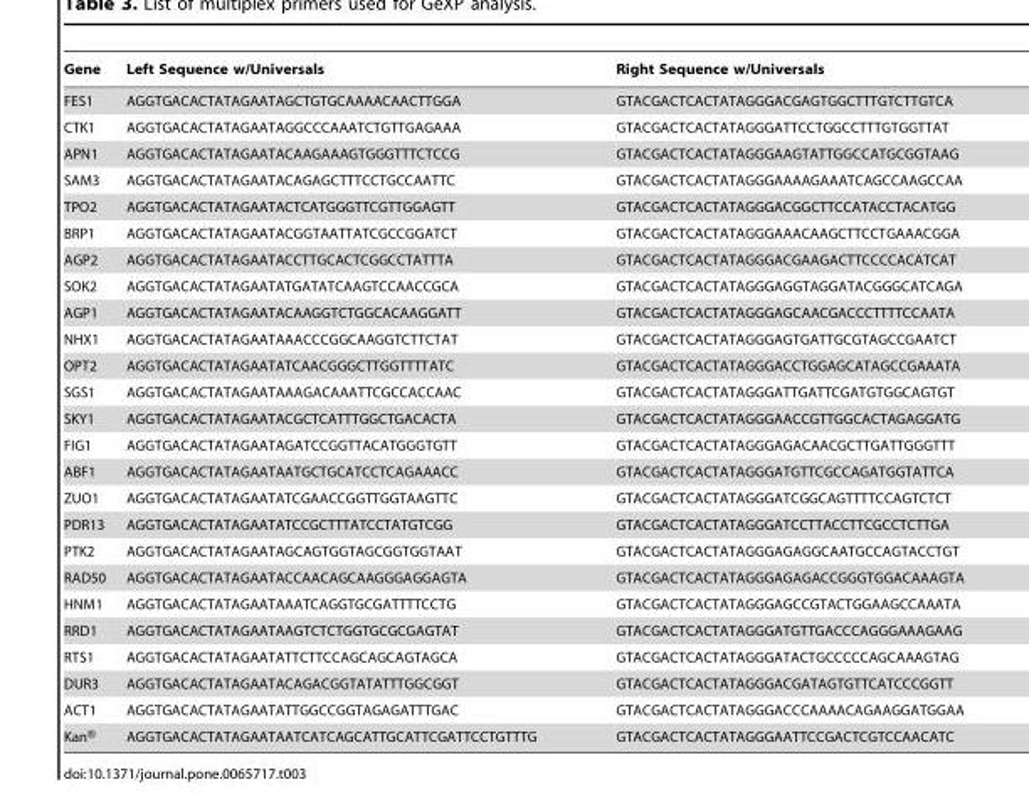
<table><thead><tr><td>Gene</td><td>Left Sequence w/Universals</td><td>Right Sequence w/Universals</td></tr></thead><tbody><tr><td>FES1</td><td>AGGTGACACTATAGAATAGCTGTGCAAAACAACTTGGA</td><td>GTACGACTCACTATAGGGACGAGTGGCTTTGTCTTGTCA</td></tr><tr><td>CTK1</td><td>AGGTGACACTATAGAATAGGCCCAAATCTGTTGAGAAA</td><td>GTACGACTCACTATAGGGATTCCTGGCCTTTGTGGTTAT</td></tr><tr><td>APN1</td><td>AGGTGACACTATAGAATACAAGAAAGTGGGTTTCTCCG</td><td>GTACGACTCACTATAGGGAAGTATTGGCCATGCGGTAAG</td></tr><tr><td>SAM3</td><td>AGGTGACACTATAGAATACAGAGCTTTCCTGCCAATTC</td><td>GTACGACTCACTATAGGGAAAAGAAATCAGCCAAGCCAA</td></tr><tr><td>TPO2</td><td>AGGTGACACTATAGAATACTCATGGGTTCGTTGGAGTT</td><td>GTACGACTCACTATAGGGACGGCTTCCATACCTACATGG</td></tr><tr><td>BRP1</td><td>AGGTGACACTATAGAATACGGTAATTATCGCCGGATCT</td><td>GTACGACTCACTATAGGGAAACAAGCTTCCTGAAACGGA</td></tr><tr><td>AGP2</td><td>AGGTGACACTATAGAATACCTTGCACTCGGCCTATTTA</td><td>GTACGACTCACTATAGGGACGAAGACTTCCCCACATCAT</td></tr><tr><td>SOK2</td><td>AGGTGACACTATAGAATATGATATCAAGTCCAACCGCA</td><td>GTACGACTCACTATAGGGAGGTAGGATACGGGCATCAGA</td></tr><tr><td>AGP1</td><td>AGGTGACACTATAGAATACAAGGTCTGGCACAAGGATT</td><td>GTACGACTCACTATAGGGAGCAACGACCCTTTTCCAATA</td></tr><tr><td>NHX1</td><td>AGGTGACACTATAGAATAAACCCGGCAAGGTCTTCTAT</td><td>GTACGACTCACTATAGGGAGTGATTGCGTAGCCGAATCT</td></tr><tr><td>OPT2</td><td>AGGTGACACTATAGAATATCAACGGGCTTGGTTTTATC</td><td>GTACGACTCACTATAGGGACCTGGAGCATAGCCGAAATA</td></tr><tr><td>SGS1</td><td>AGGTGACACTATAGAATAAAGACAAATTCGCCACCAAC</td><td>GTACGACTCACTATAGGGATTGATTCGATGTGGCAGTGT</td></tr><tr><td>SKY1</td><td>AGGTGACACTATAGAATACGCTCATTTGGCTGACACTA</td><td>GTACGACTCACTATAGGGAACCGTTGGCACTAGAGGATG</td></tr><tr><td>FIG1</td><td>AGGTGACACTATAGAATAGATCCGGTTACATGGGTGTT</td><td>GTACGACTCACTATAGGGAGACAACGCTTGATTGGGTTT</td></tr><tr><td>ABF1</td><td>AGGTGACACTATAGAATAATGCTGCATCCTCAGAAACC</td><td>GTACGACTCACTATAGGGATGTTCGCCAGATGGTATTCA</td></tr><tr><td>ZUO1</td><td>AGGTGACACTATAGAATATCGAACCGGTTGGTAAGTTC</td><td>GTACGACTCACTATAGGGATCGGCAGTTTTCCAGTCTCT</td></tr><tr><td>PDR13</td><td>AGGTGACACTATAGAATATCCGCTTTATCCTATGTCGG</td><td>GTACGACTCACTATAGGGATCCTTACCTTCGCCTCTTGA</td></tr><tr><td>PTK2</td><td>AGGTGACACTATAGAATAGCAGTGGTAGCGGTGGTAAT</td><td>GTACGACTCACTATAGGGAGAGGCAATGCCAGTACCTGT</td></tr><tr><td>RAD50</td><td>AGGTGACACTATAGAATACCAACAGCAAGGGAGGAGTA</td><td>GTACGACTCACTATAGGGAGAGACCGGGTGGACAAAGTA</td></tr><tr><td>HNM1</td><td>AGGTGACACTATAGAATAAATCAGGTGCGATTTTCCTG</td><td>GTACGACTCACTATAGGGAGCCGTACTGGAAGCCAAATA</td></tr><tr><td>RRD1</td><td>AGGTGACACTATAGAATAAGTCTCTGGTGCGCGAGTAT</td><td>GTACGACTCACTATAGGGATGTTGACCCAGGGAAAGAAG</td></tr><tr><td>RTS1</td><td>AGGTGACACTATAGAATATTCTTCCAGCAGCAGTAGCA</td><td>GTACGACTCACTATAGGGATACTGCCCCCAGCAAAGTAG</td></tr><tr><td>DUR3</td><td>AGGTGACACTATAGAATACAGACGGTATATTTGGCGGT</td><td>GTACGACTCACTATAGGGACGATAGTGTTCATCCCGGTT</td></tr><tr><td>ACT1</td><td>AGGTGACACTATAGAATATTGGCCGGTAGAGATTTGAC</td><td>GTACGACTCACTATAGGGACCCAAAACAGAAGGATGGAA</td></tr><tr><td>Kan®</td><td>AGGTGACACTATAGAATAATCATCAGCATTGCATTCGATTCCTGTTTG</td><td>GTACGACTCACTATAGGGAATTCCGACTCGTCCAACATC</td></tr></tbody></table>